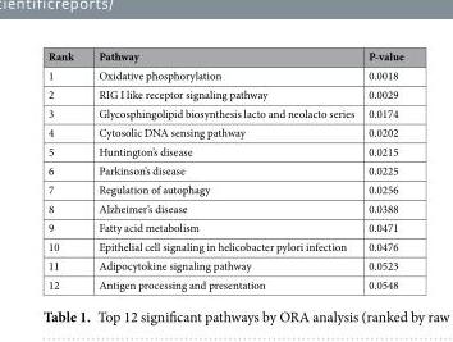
<table><thead><tr><td>Rank</td><td>Pathway</td><td>P-value</td></tr></thead><tbody><tr><td>1</td><td>Oxidative phosphorylation</td><td>0.0018</td></tr><tr><td>2</td><td>RIG I like receptor signaling pathway</td><td>0.0029</td></tr><tr><td>3</td><td>Glycosphingolipid biosynthesis lacto and neolacto series</td><td>0.0174</td></tr><tr><td>4</td><td>Cytosolic DNA sensing pathway</td><td>0.0202</td></tr><tr><td>5</td><td>Huntington’s disease</td><td>0.0215</td></tr><tr><td>6</td><td>Parkinson’s disease</td><td>0.0225</td></tr><tr><td>7</td><td>Regulation of autophagy</td><td>0.0256</td></tr><tr><td>8</td><td>Alzheimer’s disease</td><td>0.0388</td></tr><tr><td>9</td><td>Fatty acid metabolism</td><td>0.0471</td></tr><tr><td>10</td><td>Epithelial cell signaling in helicobacter pylori infection</td><td>0.0476</td></tr><tr><td>11</td><td>Adipocytokine signaling pathway</td><td>0.0523</td></tr><tr><td>12</td><td>Antigen processing and presentation</td><td>0.0548</td></tr></tbody></table>